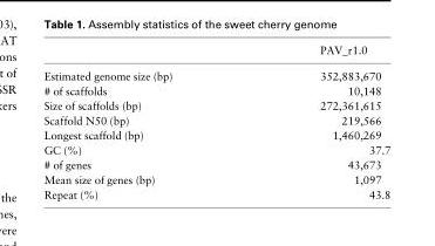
<table><thead><tr><td></td><td>PAV_r1.0</td></tr></thead><tbody><tr><td>Estimated genome size (bp)</td><td>352,883,670</td></tr><tr><td># of scaffolds</td><td>10,148</td></tr><tr><td>Size of scaffolds (bp)</td><td>272,361,615</td></tr><tr><td>Scaffold N50 (bp)</td><td>219,566</td></tr><tr><td>Longest scaffold (bp)</td><td>1,460,269</td></tr><tr><td>GC (%)</td><td>37.7</td></tr><tr><td># of genes</td><td>43,673</td></tr><tr><td>Mean size of genes (bp)</td><td>1,097</td></tr><tr><td>Repeat (%)</td><td>43.8</td></tr></tbody></table>